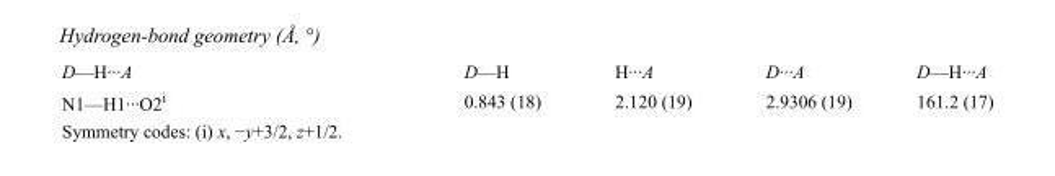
<table><tbody><tr><td>D—H···A</td><td>D—H</td><td>H···A</td><td>D···A</td><td>D—H···A</td></tr><tr><td>N1—H1···O2<sup>i</sup></td><td>0.843 (18)</td><td>2.120 (19)</td><td>2.9306 (19)</td><td>161.2 (17)</td></tr></tbody></table>